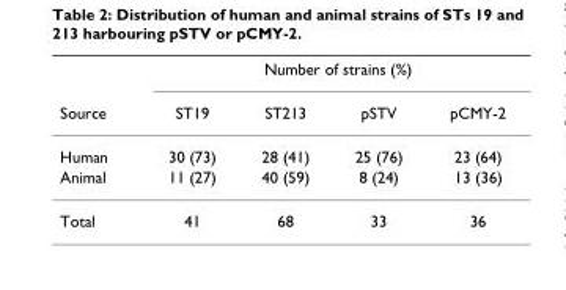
<table><thead><tr><td rowspan="2">Source</td><td colspan="4">Number of strains (%)</td></tr><tr><td>ST19</td><td>ST213</td><td>pSTV</td><td>pCMY-2</td></tr></thead><tbody><tr><td>Human</td><td>30 (73)</td><td>28 (41)</td><td>25 (76)</td><td>23 (64)</td></tr><tr><td>Animal</td><td>11 (27)</td><td>40 (59)</td><td>8 (24)</td><td>13 (36)</td></tr><tr><td>Total</td><td>41</td><td>68</td><td>33</td><td>36</td></tr></tbody></table>